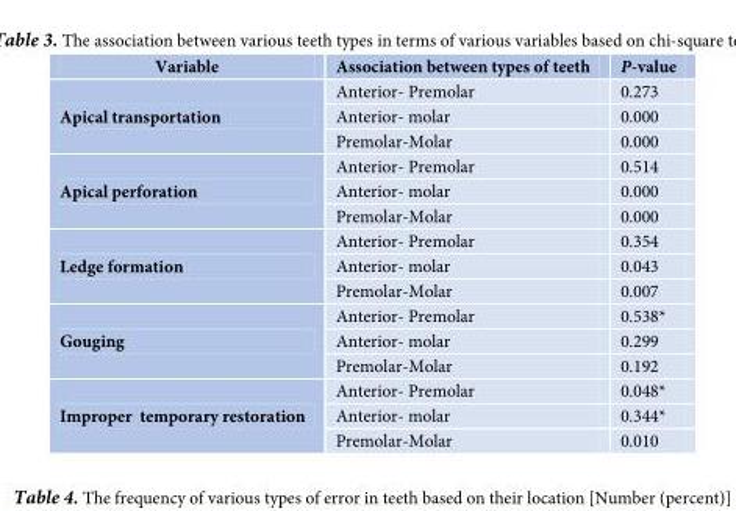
<table><thead><tr><td>Variable</td><td>Association between types of teeth</td><td>P-value</td></tr></thead><tbody><tr><td rowspan="3">Apical transportation</td><td>Anterior- Premolar</td><td>0.273</td></tr><tr><td>Anterior- molar</td><td>0.000</td></tr><tr><td>Premolar-Molar</td><td>0.000</td></tr><tr><td rowspan="3">Apical perforation</td><td>Anterior- Premolar</td><td>0.514</td></tr><tr><td>Anterior- molar</td><td>0.000</td></tr><tr><td>Premolar-Molar</td><td>0.000</td></tr><tr><td rowspan="3">Ledge formation</td><td>Anterior- Premolar</td><td>0.354</td></tr><tr><td>Anterior- molar</td><td>0.043</td></tr><tr><td>Premolar-Molar</td><td>0.007</td></tr><tr><td rowspan="3">Gouging</td><td>Anterior- Premolar</td><td>0.538*</td></tr><tr><td>Anterior- molar</td><td>0.299</td></tr><tr><td>Premolar-Molar</td><td>0.192</td></tr><tr><td rowspan="3">Improper temporary restoration</td><td>Anterior- Premolar</td><td>0.048*</td></tr><tr><td>Anterior- molar</td><td>0.344*</td></tr><tr><td>Premolar-Molar</td><td>0.010</td></tr></tbody></table>